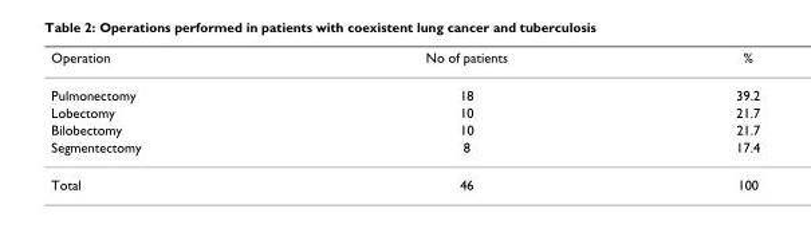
<table><thead><tr><td>Operation</td><td>No of patients</td><td>%</td></tr></thead><tbody><tr><td>Pulmonectomy</td><td>18</td><td>39.2</td></tr><tr><td>Lobectomy</td><td>10</td><td>21.7</td></tr><tr><td>Bilobectomy</td><td>10</td><td>21.7</td></tr><tr><td>Segmentectomy</td><td>8</td><td>17.4</td></tr><tr><td>Total</td><td>46</td><td>100</td></tr></tbody></table>